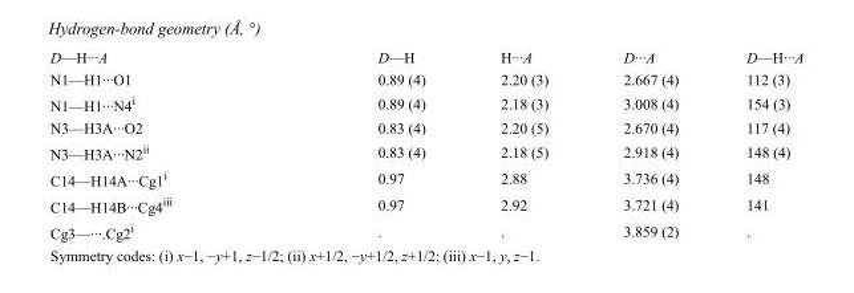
<table><tbody><tr><td>D—H···A</td><td>D—H</td><td>H···A</td><td>D···A</td><td>D—H···A</td></tr><tr><td>N1—H1···O1</td><td>0.89 (4)</td><td>2.20 (3)</td><td>2.667 (4)</td><td>112 (3)</td></tr><tr><td>N1—H1···N4<sup>i</sup></td><td>0.89 (4)</td><td>2.18 (3)</td><td>3.008 (4)</td><td>154 (3)</td></tr><tr><td>N3—H3A···O2</td><td>0.83 (4)</td><td>2.20 (5)</td><td>2.670 (4)</td><td>117 (4)</td></tr><tr><td>N3—H3A···N2<sup>ii</sup></td><td>0.83 (4)</td><td>2.18 (5)</td><td>2.918 (4)</td><td>148 (4)</td></tr><tr><td>C14—H14A···Cg1<sup>i</sup></td><td>0.97</td><td>2.88</td><td>3.736 (4)</td><td>148</td></tr><tr><td>C14—H14B···Cg4<sup>iii</sup></td><td>0.97</td><td>2.92</td><td>3.721 (4)</td><td>141</td></tr><tr><td>Cg3—···.Cg2<sup>i</sup></td><td>.</td><td>.</td><td>3.859 (2)</td><td>.</td></tr></tbody></table>